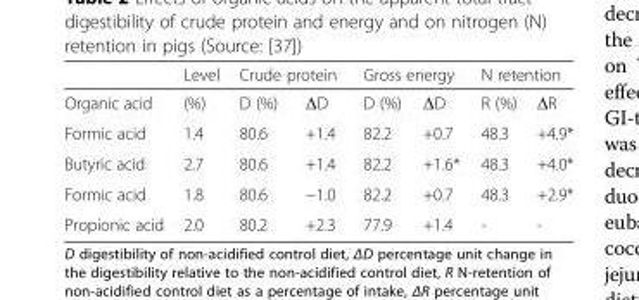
<table><thead><tr><td rowspan="2">Organic acid</td><td rowspan="2">Level (%)</td><td colspan="2">Crude protein</td><td colspan="2">Gross energy</td><td colspan="2">N retention</td></tr><tr><td>D (%)</td><td>ΔD</td><td>D (%)</td><td>ΔD</td><td>R (%)</td><td>ΔR</td></tr></thead><tbody><tr><td>Formic acid</td><td>1.4</td><td>80.6</td><td>+1.4</td><td>82.2</td><td>+0.7</td><td>48.3</td><td>+4.9*</td></tr><tr><td>Butyric acid</td><td>2.7</td><td>80.6</td><td>+1.4</td><td>82.2</td><td>+1.6*</td><td>48.3</td><td>+4.0*</td></tr><tr><td>Formic acid</td><td>1.8</td><td>80.6</td><td>−1.0</td><td>82.2</td><td>+0.7</td><td>48.3</td><td>+2.9*</td></tr><tr><td>Propionic acid</td><td>2.0</td><td>80.2</td><td>+2.3</td><td>77.9</td><td>+1.4</td><td>-</td><td>-</td></tr></tbody></table>